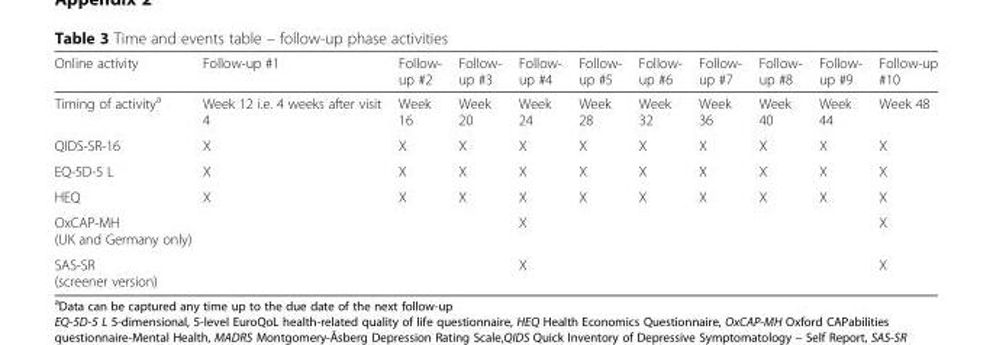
<table><thead><tr><td>Online activity</td><td>Follow-up #1</td><td>Follow- up #2</td><td>Follow- up #3</td><td>Follow- up #4</td><td>Follow- up #5</td><td>Follow- up #6</td><td>Follow- up #7</td><td>Follow- up #8</td><td>Follow- up #9</td><td>Follow-up #10</td></tr></thead><tbody><tr><td>Timing of activity<sup>a</sup></td><td>Week 12 i.e. 4 weeks after visit 4</td><td>Week 16</td><td>Week 20</td><td>Week 24</td><td>Week 28</td><td>Week 32</td><td>Week 36</td><td>Week 40</td><td>Week 44</td><td>Week 48</td></tr><tr><td>QIDS-SR-16</td><td>X</td><td>X</td><td>X</td><td>X</td><td>X</td><td>X</td><td>X</td><td>X</td><td>X</td><td>X</td></tr><tr><td>EQ-5D-5 L</td><td>X</td><td>X</td><td>X</td><td>X</td><td>X</td><td>X</td><td>X</td><td>X</td><td>X</td><td>X</td></tr><tr><td>HEQ</td><td>X</td><td>X</td><td>X</td><td>X</td><td>X</td><td>X</td><td>X</td><td>X</td><td>X</td><td>X</td></tr><tr><td>OxCAP-MH (UK and Germany only)</td><td></td><td></td><td></td><td>X</td><td></td><td></td><td></td><td></td><td></td><td>X</td></tr><tr><td>SAS-SR (screener version)</td><td></td><td></td><td></td><td>X</td><td></td><td></td><td></td><td></td><td></td><td>X</td></tr></tbody></table>